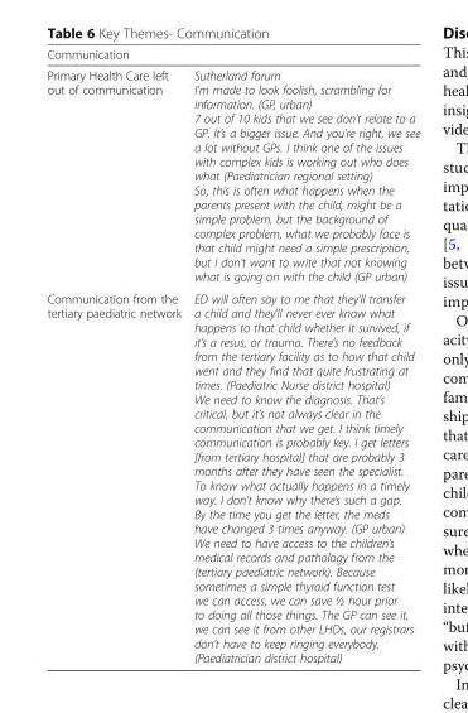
<table><thead><tr><td colspan="2">Communication</td></tr><tr><td>Primary Health Care left out of communication</td><td>Sutherland forum I’m made to look foolish, scrambling for information. (GP, urban) 7 out of 10 kids that we see don’t relate to a GP. It’s a bigger issue. And you’re right, we see a lot without GPs. I think one of the issues with complex kids is working out who does what (Paediatrician regional setting) So, this is often what happens when the parents present with the child, might be a simple problem, but the background of complex problem, what we probably face is that child might need a simple prescription, but I don’t want to write that not knowing what is going on with the child (GP urban)</td></tr></thead><tbody><tr><td>Communication from the tertiary paediatric network</td><td>ED will often say to me that they’ll transfer a child and they’ll never ever know what happens to that child whether it survived, if it’s a resus, or trauma. There’s no feedback from the tertiary facility as to how that child went and they find that quite frustrating at times. (Paediatric Nurse district hospital) We need to know the diagnosis. That’s critical, but it’s not always clear in the communication that we get. I think timely communication is probably key. I get letters [from tertiary hospital] that are probably 3 months after they have seen the specialist. To know what actually happens in a timely way. I don’t know why there’s such a gap. By the time you get the letter, the meds have changed 3 times anyway. (GP urban) We need to have access to the children’s medical records and pathology from the (tertiary paediatric network). Because sometimes a simple thyroid function test we can access, we can save ½ hour prior to doing all those things. The GP can see it, we can see it from other LHDs, our registrars don’t have to keep ringing everybody. (Paediatrician district hospital)</td></tr></tbody></table>